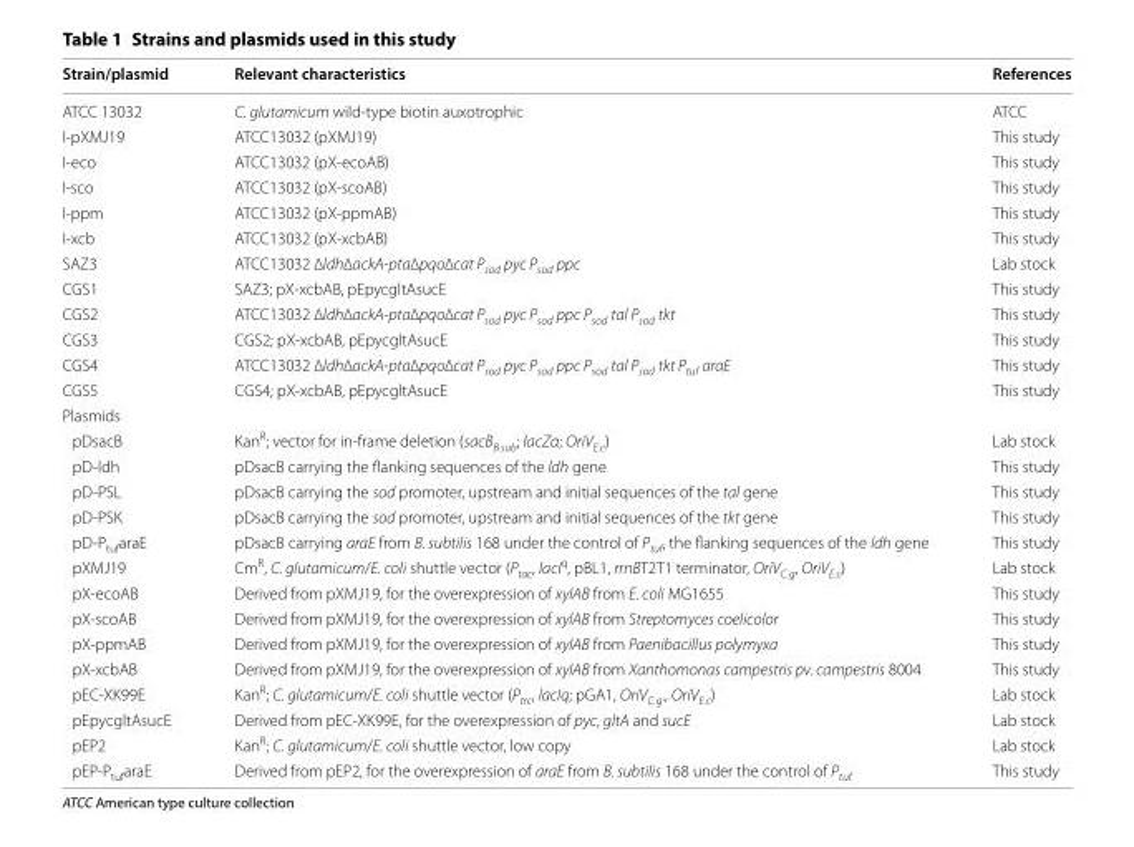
<table><thead><tr><td>Strain/plasmid</td><td>Relevant characteristics</td><td>References</td></tr></thead><tbody><tr><td>ATCC 13032</td><td>C. glutamicum wild‑type biotin auxotrophic</td><td>ATCC</td></tr><tr><td>I‑pXMJ19</td><td>ATCC13032 (pXMJ19)</td><td>This study</td></tr><tr><td>I‑eco</td><td>ATCC13032 (pX‑ecoAB)</td><td>This study</td></tr><tr><td>I‑sco</td><td>ATCC13032 (pX‑scoAB)</td><td>This study</td></tr><tr><td>I‑ppm</td><td>ATCC13032 (pX‑ppmAB)</td><td>This study</td></tr><tr><td>I‑xcb</td><td>ATCC13032 (pX‑xcbAB)</td><td>This study</td></tr><tr><td>SAZ3</td><td>ATCC13032 ∆ldh∆ackA‑pta∆pqo∆cat P<sub>sod</sub> pyc P<sub>sod</sub> ppc</td><td>Lab stock</td></tr><tr><td>CGS1</td><td>SAZ3; pX‑xcbAB, pEpycgltAsucE</td><td>This study</td></tr><tr><td>CGS2</td><td>ATCC13032 ∆ldh∆ackA‑pta∆pqo∆cat P<sub>sod</sub> pyc P<sub>sod</sub> ppc P<sub>sod</sub> tal P<sub>sod</sub> tkt</td><td>This study</td></tr><tr><td>CGS3</td><td>CGS2; pX‑xcbAB, pEpycgltAsucE</td><td>This study</td></tr><tr><td>CGS4</td><td>ATCC13032 ∆ldh∆ackA‑pta∆pqo∆cat P<sub>sod</sub> pyc P<sub>sod</sub> ppc P<sub>sod</sub> tal P<sub>sod</sub> tkt P<sub>tuf</sub> araE</td><td>This study</td></tr><tr><td>CGS5</td><td>CGS4; pX‑xcbAB, pEpycgltAsucE</td><td>This study</td></tr><tr><td colspan="3">Plasmids</td></tr><tr><td>pDsacB</td><td>Kan<sup>R</sup>; vector for in‑frame deletion (sacB<sub>B.sub</sub>; lacZα; OriV<sub>E.c</sub>)</td><td>Lab stock</td></tr><tr><td>pD‑ldh</td><td>pDsacB carrying the flanking sequences of the ldh gene</td><td>This study</td></tr><tr><td>pD‑PSL</td><td>pDsacB carrying the sod promoter, upstream and initial sequences of the tal gene</td><td>This study</td></tr><tr><td>pD‑PSK</td><td>pDsacB carrying the sod promoter, upstream and initial sequences of the tkt gene</td><td>This study</td></tr><tr><td>pD‑P<sub>tuf</sub>araE</td><td>pDsacB carrying araE from B. subtilis 168 under the control of P<sub>tuf</sub>, the flanking sequences of the ldh gene</td><td>This study</td></tr><tr><td>pXMJ19</td><td>Cm<sup>R</sup>, C. glutamicum/E. coli shuttle vector (P<sub>tac</sub>, lacI<sup>q</sup>, pBL1, rrnBT2T1 terminator, OriV<sub>C.g</sub>, OriV<sub>E.c</sub>)</td><td>Lab stock</td></tr><tr><td>pX‑ecoAB</td><td>Derived from pXMJ19, for the overexpression of xylAB from E. coli MG1655</td><td>This study</td></tr><tr><td>pX‑scoAB</td><td>Derived from pXMJ19, for the overexpression of xylAB from Streptomyces coelicolor</td><td>This study</td></tr><tr><td>pX‑ppmAB</td><td>Derived from pXMJ19, for the overexpression of xylAB from Paenibacillus polymyxa</td><td>This study</td></tr><tr><td>pX‑xcbAB</td><td>Derived from pXMJ19, for the overexpression of xylAB from Xanthomonas campestris pv. campestris 8004</td><td>This study</td></tr><tr><td>pEC‑XK99E</td><td>Kan<sup>R</sup>; C. glutamicum/E. coli shuttle vector (P<sub>trc</sub>, lacIq; pGA1, OriV<sub>C.g</sub>., OriV<sub>E.c</sub>)</td><td>Lab stock</td></tr><tr><td>pEpycgltAsucE</td><td>Derived from pEC‑XK99E, for the overexpression of pyc, gltA and sucE</td><td>Lab stock</td></tr><tr><td>pEP2</td><td>Kan<sup>R</sup>; C. glutamicum/E. coli shuttle vector, low copy</td><td>Lab stock</td></tr><tr><td>pEP‑P<sub>tuf</sub>araE</td><td>Derived from pEP2, for the overexpression of araE from B. subtilis 168 under the control of P<sub>tuf</sub></td><td>This study</td></tr></tbody></table>